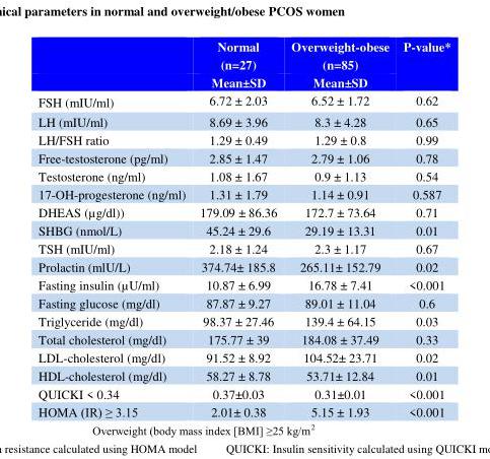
<table><thead><tr><td rowspan="2"></td><td rowspan="2">Normal (n=27) Mean±SD</td><td rowspan="2">Overweight-obese (n=85) Mean±SD</td><td rowspan="2">P-value*</td></tr><tr></tr></thead><tbody><tr><td>FSH (mIU/ml)</td><td>6.72 ± 2.03</td><td>6.52 ± 1.72</td><td>0.62</td></tr><tr><td>LH (mIU/ml)</td><td>8.69 ± 3.96</td><td>8.3 ± 4.28</td><td>0.65</td></tr><tr><td>LH/FSH ratio</td><td>1.29 ± 0.49</td><td>1.29 ± 0.8</td><td>0.99</td></tr><tr><td>Free-testosterone (pg/ml)</td><td>2.85 ± 1.47</td><td>2.79 ± 1.06</td><td>0.78</td></tr><tr><td>Testosterone (ng/ml)</td><td>1.08 ± 1.67</td><td>0.9 ± 1.13</td><td>0.54</td></tr><tr><td>17-OH-progesterone (ng/ml)</td><td>1.31 ± 1.79</td><td>1.14 ± 0.91</td><td>0.587</td></tr><tr><td>DHEAS (µg/dl))</td><td>179.09 ± 86.36</td><td>172.7 ± 73.64</td><td>0.71</td></tr><tr><td>SHBG (nmol/L)</td><td>45.24 ± 29.6</td><td>29.19 ± 13.31</td><td>0.01</td></tr><tr><td>TSH (mIU/ml)</td><td>2.18 ± 1.24</td><td>2.3 ± 1.17</td><td>0.67</td></tr><tr><td>Prolactin (mlU/L)</td><td>374.74± 185.8</td><td>265.11± 152.79</td><td>0.02</td></tr><tr><td>Fasting insulin (µU/ml)</td><td>10.87 ± 6.99</td><td>16.78 ± 7.41</td><td>&lt;0.001</td></tr><tr><td>Fasting glucose (mg/dl)</td><td>87.87 ± 9.27</td><td>89.01 ± 11.04</td><td>0.6</td></tr><tr><td>Triglyceride (mg/dl)</td><td>98.37 ± 27.46</td><td>139.4 ± 64.15</td><td>0.03</td></tr><tr><td>Total cholesterol (mg/dl)</td><td>175.77 ± 39</td><td>184.08 ± 37.49</td><td>0.33</td></tr><tr><td>LDL-cholesterol (mg/dl)</td><td>91.52 ± 8.92</td><td>104.52± 23.71</td><td>0.02</td></tr><tr><td>HDL-cholesterol (mg/dl)</td><td>58.27 ± 8.78</td><td>53.71± 12.84</td><td>0.01</td></tr><tr><td>QUICKI &lt; 0.34</td><td>0.37±0.03</td><td>0.31±0.01</td><td>&lt;0.001</td></tr><tr><td>HOMA (IR) ≥ 3.15</td><td>2.01± 0.38</td><td>5.15 ± 1.93</td><td>&lt;0.001</td></tr></tbody></table>